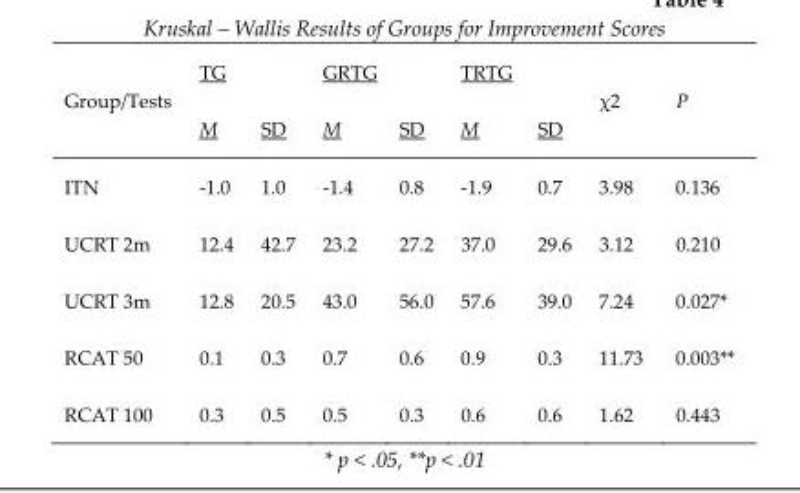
<table><thead><tr><td rowspan="2">Group/Tests</td><td colspan="2">TG</td><td colspan="2">GRTG</td><td colspan="2">TRTG</td><td rowspan="2">χ<sup>2</sup></td><td rowspan="2">P</td></tr><tr><td>M</td><td>SD</td><td>M</td><td>SD</td><td>M</td><td>SD</td></tr></thead><tbody><tr><td>ITN</td><td>-1.0</td><td>1.0</td><td>-1.4</td><td>0.8</td><td>-1.9</td><td>0.7</td><td>3.98</td><td>0.136</td></tr><tr><td>UCRT 2m</td><td>12.4</td><td>42.7</td><td>23.2</td><td>27.2</td><td>37.0</td><td>29.6</td><td>3.12</td><td>0.210</td></tr><tr><td>UCRT 3m</td><td>12.8</td><td>20.5</td><td>43.0</td><td>56.0</td><td>57.6</td><td>39.0</td><td>7.24</td><td>0.027*</td></tr><tr><td>RCAT 50</td><td>0.1</td><td>0.3</td><td>0.7</td><td>0.6</td><td>0.9</td><td>0.3</td><td>11.73</td><td>0.003**</td></tr><tr><td>RCAT 100</td><td>0.3</td><td>0.5</td><td>0.5</td><td>0.3</td><td>0.6</td><td>0.6</td><td>1.62</td><td>0.443</td></tr></tbody></table>